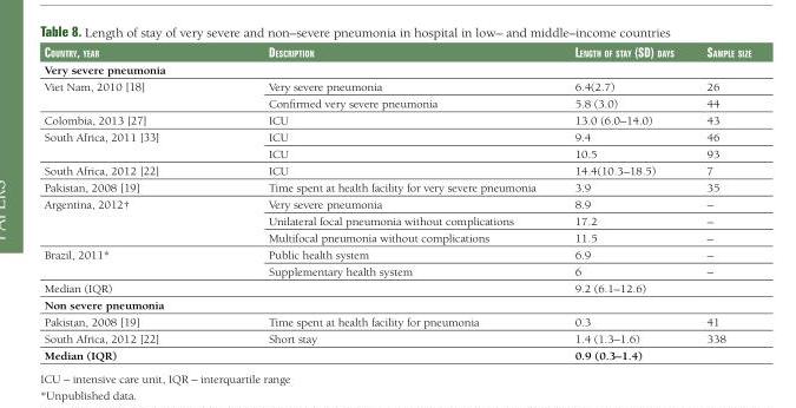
<table><thead><tr><td>COuntry, year</td><td>deSCriptiOn</td><td>lengtH Of Stay (Sd) dayS</td><td>Sample Size</td></tr></thead><tbody><tr><td colspan="4">Very severe pneumonia</td></tr><tr><td rowspan="2">Viet Nam, 2010 [18]</td><td>Very severe pneumonia</td><td>6.4(2.7)</td><td>26</td></tr><tr><td>Confirmed very severe pneumonia</td><td>5.8 (3.0)</td><td>44</td></tr><tr><td>Colombia, 2013 [27]</td><td>ICU</td><td>13.0 (6.0–14.0)</td><td>43</td></tr><tr><td rowspan="2">South Africa, 2011 [33]</td><td>ICU</td><td>9.4</td><td>46</td></tr><tr><td>ICU</td><td>10.5</td><td>93</td></tr><tr><td>South Africa, 2012 [22]</td><td>ICU</td><td>14.4(10.3–18.5)</td><td>7</td></tr><tr><td>Pakistan, 2008 [19]</td><td>Time spent at health facility for very severe pneumonia</td><td>3.9</td><td>35</td></tr><tr><td rowspan="3">Argentina, 2012†</td><td>Very severe pneumonia</td><td>8.9</td><td>–</td></tr><tr><td>Unilateral focal pneumonia without complications</td><td>17.2</td><td>–</td></tr><tr><td>Multifocal pneumonia without complications</td><td>11.5</td><td>–</td></tr><tr><td rowspan="2">Brazil, 2011*</td><td>Public health system</td><td>6.9</td><td>–</td></tr><tr><td>Supplementary health system</td><td>6</td><td>–</td></tr><tr><td>Median (IQR)</td><td></td><td>9.2 (6.1–12.6)</td><td></td></tr><tr><td colspan="4">Non severe pneumonia</td></tr><tr><td>Pakistan, 2008 [19]</td><td>Time spent at health facility for pneumonia</td><td>0.3</td><td>41</td></tr><tr><td>South Africa, 2012 [22]</td><td>Short stay</td><td>1.4 (1.3–1.6)</td><td>338</td></tr><tr><td>Median (IQR)</td><td></td><td>0.9 (0.3–1.4)</td><td></td></tr></tbody></table>